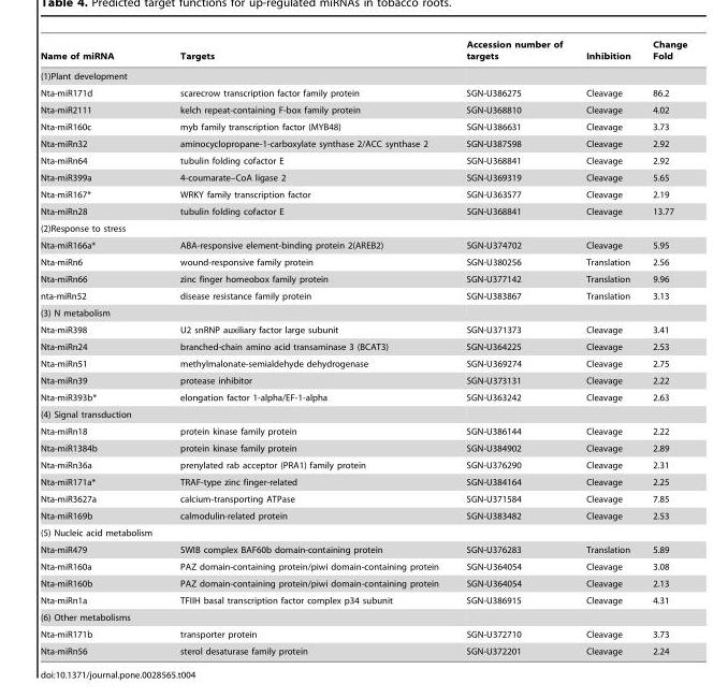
<table><thead><tr><td>Name of miRNA</td><td>Targets</td><td>Accession number of targets</td><td>Inhibition</td><td>Change Fold</td></tr></thead><tbody><tr><td colspan="5">(1)Plant development</td></tr><tr><td>Nta-miR171d</td><td>scarecrow transcription factor family protein</td><td>SGN-U386275</td><td>Cleavage</td><td>86.2</td></tr><tr><td>Nta-miR2111</td><td>kelch repeat-containing F-box family protein</td><td>SGN-U368810</td><td>Cleavage</td><td>4.02</td></tr><tr><td>Nta-miR160c</td><td>myb family transcription factor (MYB48)</td><td>SGN-U386631</td><td>Cleavage</td><td>3.73</td></tr><tr><td>Nta-miRn32</td><td>aminocyclopropane-1-carboxylate synthase 2/ACC synthase 2</td><td>SGN-U387598</td><td>Cleavage</td><td>2.92</td></tr><tr><td>Nta-miRn64</td><td>tubulin folding cofactor E</td><td>SGN-U368841</td><td>Cleavage</td><td>2.92</td></tr><tr><td>Nta-miR399a</td><td>4-coumarate–CoA ligase 2</td><td>SGN-U369319</td><td>Cleavage</td><td>5.65</td></tr><tr><td>Nta-miR167*</td><td>WRKY family transcription factor</td><td>SGN-U363577</td><td>Cleavage</td><td>2.19</td></tr><tr><td>Nta-miRn28</td><td>tubulin folding cofactor E</td><td>SGN-U368841</td><td>Cleavage</td><td>13.77</td></tr><tr><td colspan="5">(2)Response to stress</td></tr><tr><td>Nta-miR166a*</td><td>ABA-responsive element-binding protein 2(AREB2)</td><td>SGN-U374702</td><td>Cleavage</td><td>5.95</td></tr><tr><td>Nta-miRn6</td><td>wound-responsive family protein</td><td>SGN-U380256</td><td>Translation</td><td>2.56</td></tr><tr><td>Nta-miRn66</td><td>zinc finger homeobox family protein</td><td>SGN-U377142</td><td>Translation</td><td>9.96</td></tr><tr><td>nta-miRn52</td><td>disease resistance family protein</td><td>SGN-U383867</td><td>Translation</td><td>3.13</td></tr><tr><td colspan="5">(3) N metabolism</td></tr><tr><td>Nta-miR398</td><td>U2 snRNP auxiliary factor large subunit</td><td>SGN-U371373</td><td>Cleavage</td><td>3.41</td></tr><tr><td>Nta-miRn24</td><td>branched-chain amino acid transaminase 3 (BCAT3)</td><td>SGN-U364225</td><td>Cleavage</td><td>2.53</td></tr><tr><td>Nta-miRn51</td><td>methylmalonate-semialdehyde dehydrogenase</td><td>SGN-U369274</td><td>Cleavage</td><td>2.75</td></tr><tr><td>Nta-miRn39</td><td>protease inhibitor</td><td>SGN-U373131</td><td>Cleavage</td><td>2.22</td></tr><tr><td>Nta-miR393b*</td><td>elongation factor 1-alpha/EF-1-alpha</td><td>SGN-U363242</td><td>Cleavage</td><td>2.63</td></tr><tr><td colspan="5">(4) Signal transduction</td></tr><tr><td>Nta-miRn18</td><td>protein kinase family protein</td><td>SGN-U386144</td><td>Cleavage</td><td>2.22</td></tr><tr><td>Nta-miR1384b</td><td>protein kinase family protein</td><td>SGN-U384902</td><td>Cleavage</td><td>2.89</td></tr><tr><td>Nta-miRn36a</td><td>prenylated rab acceptor (PRA1) family protein</td><td>SGN-U376290</td><td>Cleavage</td><td>2.31</td></tr><tr><td>Nta-miR171a*</td><td>TRAF-type zinc finger-related</td><td>SGN-U384164</td><td>Cleavage</td><td>2.25</td></tr><tr><td>Nta-miR3627a</td><td>calcium-transporting ATPase</td><td>SGN-U371584</td><td>Cleavage</td><td>7.85</td></tr><tr><td>Nta-miR169b</td><td>calmodulin-related protein</td><td>SGN-U383482</td><td>Cleavage</td><td>2.53</td></tr><tr><td colspan="5">(5) Nucleic acid metabolism</td></tr><tr><td>Nta-miR479</td><td>SWIB complex BAF60b domain-containing protein</td><td>SGN-U376283</td><td>Translation</td><td>5.89</td></tr><tr><td>Nta-miR160a</td><td>PAZ domain-containing protein/piwi domain-containing protein</td><td>SGN-U364054</td><td>Cleavage</td><td>3.08</td></tr><tr><td>Nta-miR160b</td><td>PAZ domain-containing protein/piwi domain-containing protein</td><td>SGN-U364054</td><td>Cleavage</td><td>2.13</td></tr><tr><td>Nta-miRn1a</td><td>TFIIH basal transcription factor complex p34 subunit</td><td>SGN-U386915</td><td>Cleavage</td><td>4.31</td></tr><tr><td colspan="5">(6) Other metabolisms</td></tr><tr><td>Nta-miR171b</td><td>transporter protein</td><td>SGN-U372710</td><td>Cleavage</td><td>3.73</td></tr><tr><td>Nta-miRn56</td><td>sterol desaturase family protein</td><td>SGN-U372201</td><td>Cleavage</td><td>2.24</td></tr></tbody></table>